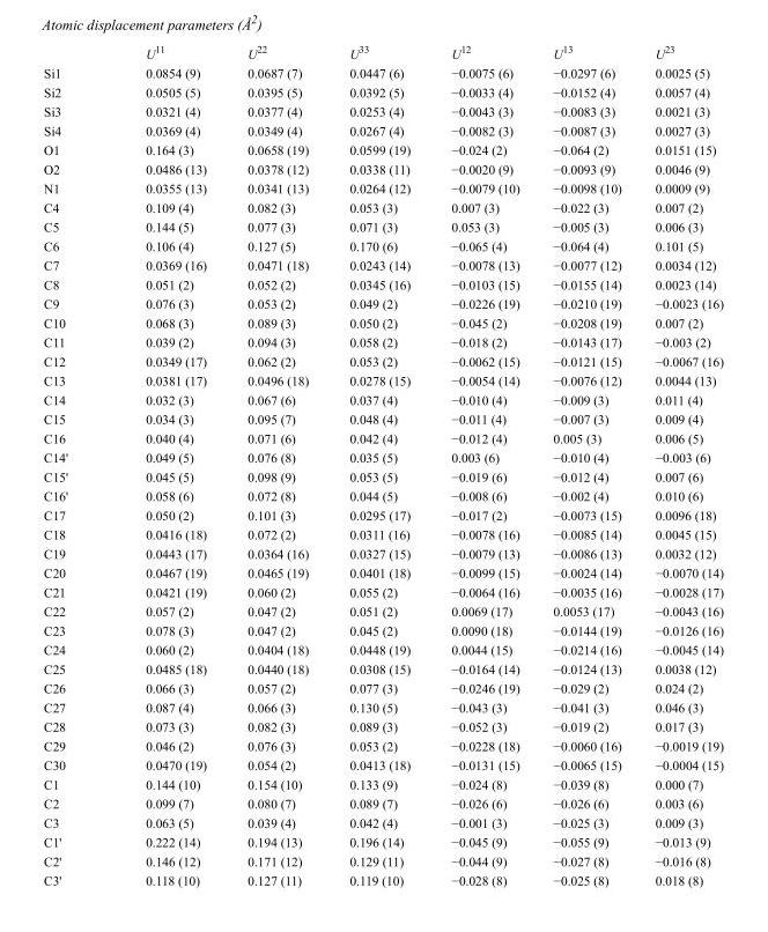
<table><thead><tr><td></td><td>U<sup>11</sup></td><td>U<sup>22</sup></td><td>U<sup>33</sup></td><td>U<sup>12</sup></td><td>U<sup>13</sup></td><td>U<sup>23</sup></td></tr></thead><tbody><tr><td>Si1</td><td>0.0854 (9)</td><td>0.0687 (7)</td><td>0.0447 (6)</td><td>−0.0075 (6)</td><td>−0.0297 (6)</td><td>0.0025 (5)</td></tr><tr><td>Si2</td><td>0.0505 (5)</td><td>0.0395 (5)</td><td>0.0392 (5)</td><td>−0.0033 (4)</td><td>−0.0152 (4)</td><td>0.0057 (4)</td></tr><tr><td>Si3</td><td>0.0321 (4)</td><td>0.0377 (4)</td><td>0.0253 (4)</td><td>−0.0043 (3)</td><td>−0.0083 (3)</td><td>0.0021 (3)</td></tr><tr><td>Si4</td><td>0.0369 (4)</td><td>0.0349 (4)</td><td>0.0267 (4)</td><td>−0.0082 (3)</td><td>−0.0087 (3)</td><td>0.0027 (3)</td></tr><tr><td>O1</td><td>0.164 (3)</td><td>0.0658 (19)</td><td>0.0599 (19)</td><td>−0.024 (2)</td><td>−0.064 (2)</td><td>0.0151 (15)</td></tr><tr><td>O2</td><td>0.0486 (13)</td><td>0.0378 (12)</td><td>0.0338 (11)</td><td>−0.0020 (9)</td><td>−0.0093 (9)</td><td>0.0046 (9)</td></tr><tr><td>N1</td><td>0.0355 (13)</td><td>0.0341 (13)</td><td>0.0264 (12)</td><td>−0.0079 (10)</td><td>−0.0098 (10)</td><td>0.0009 (9)</td></tr><tr><td>C4</td><td>0.109 (4)</td><td>0.082 (3)</td><td>0.053 (3)</td><td>0.007 (3)</td><td>−0.022 (3)</td><td>0.007 (2)</td></tr><tr><td>C5</td><td>0.144 (5)</td><td>0.077 (3)</td><td>0.071 (3)</td><td>0.053 (3)</td><td>−0.005 (3)</td><td>0.006 (3)</td></tr><tr><td>C6</td><td>0.106 (4)</td><td>0.127 (5)</td><td>0.170 (6)</td><td>−0.065 (4)</td><td>−0.064 (4)</td><td>0.101 (5)</td></tr><tr><td>C7</td><td>0.0369 (16)</td><td>0.0471 (18)</td><td>0.0243 (14)</td><td>−0.0078 (13)</td><td>−0.0077 (12)</td><td>0.0034 (12)</td></tr><tr><td>C8</td><td>0.051 (2)</td><td>0.052 (2)</td><td>0.0345 (16)</td><td>−0.0103 (15)</td><td>−0.0155 (14)</td><td>0.0023 (14)</td></tr><tr><td>C9</td><td>0.076 (3)</td><td>0.053 (2)</td><td>0.049 (2)</td><td>−0.0226 (19)</td><td>−0.0210 (19)</td><td>−0.0023 (16)</td></tr><tr><td>C10</td><td>0.068 (3)</td><td>0.089 (3)</td><td>0.050 (2)</td><td>−0.045 (2)</td><td>−0.0208 (19)</td><td>0.007 (2)</td></tr><tr><td>C11</td><td>0.039 (2)</td><td>0.094 (3)</td><td>0.058 (2)</td><td>−0.018 (2)</td><td>−0.0143 (17)</td><td>−0.003 (2)</td></tr><tr><td>C12</td><td>0.0349 (17)</td><td>0.062 (2)</td><td>0.053 (2)</td><td>−0.0062 (15)</td><td>−0.0121 (15)</td><td>−0.0067 (16)</td></tr><tr><td>C13</td><td>0.0381 (17)</td><td>0.0496 (18)</td><td>0.0278 (15)</td><td>−0.0054 (14)</td><td>−0.0076 (12)</td><td>0.0044 (13)</td></tr><tr><td>C14</td><td>0.032 (3)</td><td>0.067 (6)</td><td>0.037 (4)</td><td>−0.010 (4)</td><td>−0.009 (3)</td><td>0.011 (4)</td></tr><tr><td>C15</td><td>0.034 (3)</td><td>0.095 (7)</td><td>0.048 (4)</td><td>−0.011 (4)</td><td>−0.007 (3)</td><td>0.009 (4)</td></tr><tr><td>C16</td><td>0.040 (4)</td><td>0.071 (6)</td><td>0.042 (4)</td><td>−0.012 (4)</td><td>0.005 (3)</td><td>0.006 (5)</td></tr><tr><td>C14&#x27;</td><td>0.049 (5)</td><td>0.076 (8)</td><td>0.035 (5)</td><td>0.003 (6)</td><td>−0.010 (4)</td><td>−0.003 (6)</td></tr><tr><td>C15&#x27;</td><td>0.045 (5)</td><td>0.098 (9)</td><td>0.053 (5)</td><td>−0.019 (6)</td><td>−0.012 (4)</td><td>0.007 (6)</td></tr><tr><td>C16&#x27;</td><td>0.058 (6)</td><td>0.072 (8)</td><td>0.044 (5)</td><td>−0.008 (6)</td><td>−0.002 (4)</td><td>0.010 (6)</td></tr><tr><td>C17</td><td>0.050 (2)</td><td>0.101 (3)</td><td>0.0295 (17)</td><td>−0.017 (2)</td><td>−0.0073 (15)</td><td>0.0096 (18)</td></tr><tr><td>C18</td><td>0.0416 (18)</td><td>0.072 (2)</td><td>0.0311 (16)</td><td>−0.0078 (16)</td><td>−0.0085 (14)</td><td>0.0045 (15)</td></tr><tr><td>C19</td><td>0.0443 (17)</td><td>0.0364 (16)</td><td>0.0327 (15)</td><td>−0.0079 (13)</td><td>−0.0086 (13)</td><td>0.0032 (12)</td></tr><tr><td>C20</td><td>0.0467 (19)</td><td>0.0465 (19)</td><td>0.0401 (18)</td><td>−0.0099 (15)</td><td>−0.0024 (14)</td><td>−0.0070 (14)</td></tr><tr><td>C21</td><td>0.0421 (19)</td><td>0.060 (2)</td><td>0.055 (2)</td><td>−0.0064 (16)</td><td>−0.0035 (16)</td><td>−0.0028 (17)</td></tr><tr><td>C22</td><td>0.057 (2)</td><td>0.047 (2)</td><td>0.051 (2)</td><td>0.0069 (17)</td><td>0.0053 (17)</td><td>−0.0043 (16)</td></tr><tr><td>C23</td><td>0.078 (3)</td><td>0.047 (2)</td><td>0.045 (2)</td><td>0.0090 (18)</td><td>−0.0144 (19)</td><td>−0.0126 (16)</td></tr><tr><td>C24</td><td>0.060 (2)</td><td>0.0404 (18)</td><td>0.0448 (19)</td><td>0.0044 (15)</td><td>−0.0214 (16)</td><td>−0.0045 (14)</td></tr><tr><td>C25</td><td>0.0485 (18)</td><td>0.0440 (18)</td><td>0.0308 (15)</td><td>−0.0164 (14)</td><td>−0.0124 (13)</td><td>0.0038 (12)</td></tr><tr><td>C26</td><td>0.066 (3)</td><td>0.057 (2)</td><td>0.077 (3)</td><td>−0.0246 (19)</td><td>−0.029 (2)</td><td>0.024 (2)</td></tr><tr><td>C27</td><td>0.087 (4)</td><td>0.066 (3)</td><td>0.130 (5)</td><td>−0.043 (3)</td><td>−0.041 (3)</td><td>0.046 (3)</td></tr><tr><td>C28</td><td>0.073 (3)</td><td>0.082 (3)</td><td>0.089 (3)</td><td>−0.052 (3)</td><td>−0.019 (2)</td><td>0.017 (3)</td></tr><tr><td>C29</td><td>0.046 (2)</td><td>0.076 (3)</td><td>0.053 (2)</td><td>−0.0228 (18)</td><td>−0.0060 (16)</td><td>−0.0019 (19)</td></tr><tr><td>C30</td><td>0.0470 (19)</td><td>0.054 (2)</td><td>0.0413 (18)</td><td>−0.0131 (15)</td><td>−0.0065 (15)</td><td>−0.0004 (15)</td></tr><tr><td>C1</td><td>0.144 (10)</td><td>0.154 (10)</td><td>0.133 (9)</td><td>−0.024 (8)</td><td>−0.039 (8)</td><td>0.000 (7)</td></tr><tr><td>C2</td><td>0.099 (7)</td><td>0.080 (7)</td><td>0.089 (7)</td><td>−0.026 (6)</td><td>−0.026 (6)</td><td>0.003 (6)</td></tr><tr><td>C3</td><td>0.063 (5)</td><td>0.039 (4)</td><td>0.042 (4)</td><td>−0.001 (3)</td><td>−0.025 (3)</td><td>0.009 (3)</td></tr><tr><td>C1&#x27;</td><td>0.222 (14)</td><td>0.194 (13)</td><td>0.196 (14)</td><td>−0.045 (9)</td><td>−0.055 (9)</td><td>−0.013 (9)</td></tr><tr><td>C2&#x27;</td><td>0.146 (12)</td><td>0.171 (12)</td><td>0.129 (11)</td><td>−0.044 (9)</td><td>−0.027 (8)</td><td>−0.016 (8)</td></tr><tr><td>C3&#x27;</td><td>0.118 (10)</td><td>0.127 (11)</td><td>0.119 (10)</td><td>−0.028 (8)</td><td>−0.025 (8)</td><td>0.018 (8)</td></tr></tbody></table>